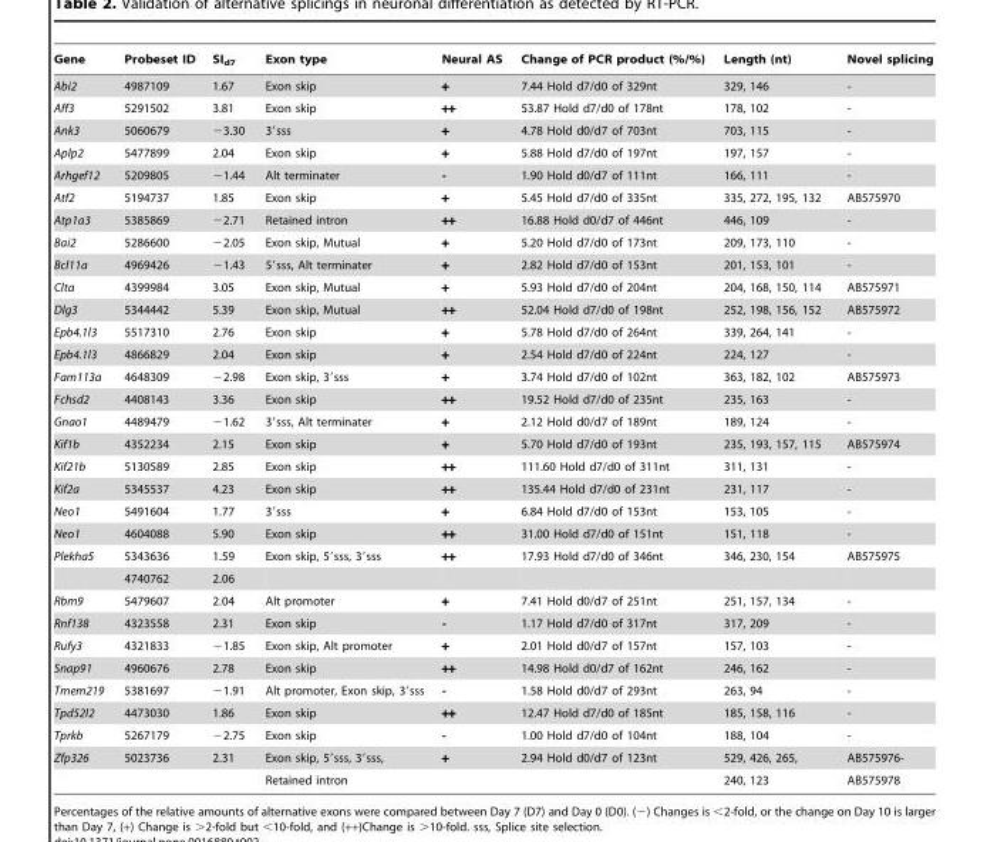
<table><thead><tr><td>Gene</td><td>Probeset ID</td><td>SI<sub>d7</sub></td><td>Exon type</td><td>Neural AS</td><td>Change of PCR product (%/%)</td><td>Length (nt)</td><td>Novel splicing</td></tr></thead><tbody><tr><td>Abi2</td><td>4987109</td><td>1.67</td><td>Exon skip</td><td>+</td><td>7.44 Hold d7/d0 of 329nt</td><td>329, 146</td><td>-</td></tr><tr><td>Aff3</td><td>5291502</td><td>3.81</td><td>Exon skip</td><td>++</td><td>53.87 Hold d7/d0 of 178nt</td><td>178, 102</td><td>-</td></tr><tr><td>Ank3</td><td>5060679</td><td>−3.30</td><td>3′sss</td><td>+</td><td>4.78 Hold d0/d7 of 703nt</td><td>703, 115</td><td>-</td></tr><tr><td>Aplp2</td><td>5477899</td><td>2.04</td><td>Exon skip</td><td>+</td><td>5.88 Hold d7/d0 of 197nt</td><td>197, 157</td><td>-</td></tr><tr><td>Arhgef12</td><td>5209805</td><td>−1.44</td><td>Alt terminater</td><td>-</td><td>1.90 Hold d0/d7 of 111nt</td><td>166, 111</td><td>-</td></tr><tr><td>Atf2</td><td>5194737</td><td>1.85</td><td>Exon skip</td><td>+</td><td>5.45 Hold d7/d0 of 335nt</td><td>335, 272, 195, 132</td><td>AB575970</td></tr><tr><td>Atp1a3</td><td>5385869</td><td>−2.71</td><td>Retained intron</td><td>++</td><td>16.88 Hold d0/d7 of 446nt</td><td>446, 109</td><td>-</td></tr><tr><td>Bai2</td><td>5286600</td><td>−2.05</td><td>Exon skip, Mutual</td><td>+</td><td>5.20 Hold d7/d0 of 173nt</td><td>209, 173, 110</td><td>-</td></tr><tr><td>Bcl11a</td><td>4969426</td><td>−1.43</td><td>5′sss, Alt terminater</td><td>+</td><td>2.82 Hold d7/d0 of 153nt</td><td>201, 153, 101</td><td>-</td></tr><tr><td>Clta</td><td>4399984</td><td>3.05</td><td>Exon skip, Mutual</td><td>+</td><td>5.93 Hold d7/d0 of 204nt</td><td>204, 168, 150, 114</td><td>AB575971</td></tr><tr><td>Dlg3</td><td>5344442</td><td>5.39</td><td>Exon skip, Mutual</td><td>++</td><td>52.04 Hold d7/d0 of 198nt</td><td>252, 198, 156, 152</td><td>AB575972</td></tr><tr><td>Epb4.1l3</td><td>5517310</td><td>2.76</td><td>Exon skip</td><td>+</td><td>5.78 Hold d7/d0 of 264nt</td><td>339, 264, 141</td><td>-</td></tr><tr><td>Epb4.1l3</td><td>4866829</td><td>2.04</td><td>Exon skip</td><td>+</td><td>2.54 Hold d7/d0 of 224nt</td><td>224, 127</td><td>-</td></tr><tr><td>Fam113a</td><td>4648309</td><td>−2.98</td><td>Exon skip, 3′sss</td><td>+</td><td>3.74 Hold d7/d0 of 102nt</td><td>363, 182, 102</td><td>AB575973</td></tr><tr><td>Fchsd2</td><td>4408143</td><td>3.36</td><td>Exon skip</td><td>++</td><td>19.52 Hold d7/d0 of 235nt</td><td>235, 163</td><td>-</td></tr><tr><td>Gnao1</td><td>4489479</td><td>−1.62</td><td>3′sss, Alt terminater</td><td>+</td><td>2.12 Hold d0/d7 of 189nt</td><td>189, 124</td><td>-</td></tr><tr><td>Kif1b</td><td>4352234</td><td>2.15</td><td>Exon skip</td><td>+</td><td>5.70 Hold d7/d0 of 193nt</td><td>235, 193, 157, 115</td><td>AB575974</td></tr><tr><td>Kif21b</td><td>5130589</td><td>2.85</td><td>Exon skip</td><td>++</td><td>111.60 Hold d7/d0 of 311nt</td><td>311, 131</td><td>-</td></tr><tr><td>Kif2a</td><td>5345537</td><td>4.23</td><td>Exon skip</td><td>++</td><td>135.44 Hold d7/d0 of 231nt</td><td>231, 117</td><td>-</td></tr><tr><td>Neo1</td><td>5491604</td><td>1.77</td><td>3′sss</td><td>+</td><td>6.84 Hold d7/d0 of 153nt</td><td>153, 105</td><td>-</td></tr><tr><td>Neo1</td><td>4604088</td><td>5.90</td><td>Exon skip</td><td>++</td><td>31.00 Hold d7/d0 of 151nt</td><td>151, 118</td><td>-</td></tr><tr><td rowspan="2">Plekha5</td><td>5343636</td><td>1.59</td><td>Exon skip, 5′sss, 3′sss</td><td>++</td><td>17.93 Hold d7/d0 of 346nt</td><td>346, 230, 154</td><td>AB575975</td></tr><tr><td>4740762</td><td>2.06</td><td></td><td></td><td></td><td></td><td></td></tr><tr><td>Rbm9</td><td>5479607</td><td>2.04</td><td>Alt promoter</td><td>+</td><td>7.41 Hold d0/d7 of 251nt</td><td>251, 157, 134</td><td>-</td></tr><tr><td>Rnf138</td><td>4323558</td><td>2.31</td><td>Exon skip</td><td>-</td><td>1.17 Hold d7/d0 of 317nt</td><td>317, 209</td><td>-</td></tr><tr><td>Rufy3</td><td>4321833</td><td>−1.85</td><td>Exon skip, Alt promoter</td><td>+</td><td>2.01 Hold d0/d7 of 157nt</td><td>157, 103</td><td>-</td></tr><tr><td>Snap91</td><td>4960676</td><td>2.78</td><td>Exon skip</td><td>++</td><td>14.98 Hold d0/d7 of 162nt</td><td>246, 162</td><td>-</td></tr><tr><td>Tmem219</td><td>5381697</td><td>−1.91</td><td>Alt promoter, Exon skip, 3′sss</td><td>-</td><td>1.58 Hold d0/d7 of 293nt</td><td>263, 94</td><td>-</td></tr><tr><td>Tpd52l2</td><td>4473030</td><td>1.86</td><td>Exon skip</td><td>++</td><td>12.47 Hold d7/d0 of 185nt</td><td>185, 158, 116</td><td>-</td></tr><tr><td>Tprkb</td><td>5267179</td><td>−2.75</td><td>Exon skip</td><td>-</td><td>1.00 Hold d7/d0 of 104nt</td><td>188, 104</td><td>-</td></tr><tr><td rowspan="2">Zfp326</td><td>5023736</td><td>2.31</td><td>Exon skip, 5′sss, 3′sss,</td><td>+</td><td>2.94 Hold d0/d7 of 123nt</td><td>529, 426, 265,</td><td>AB575976-</td></tr><tr><td></td><td></td><td>Retained intron</td><td></td><td></td><td>240, 123</td><td>AB575978</td></tr></tbody></table>